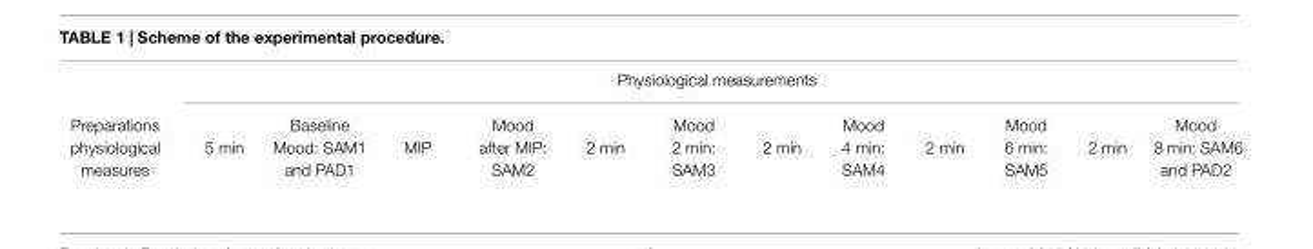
<table><thead><tr><td rowspan="2">Preparations physiological measures</td><td colspan="12">Physiological measurements</td></tr><tr><td>5 min</td><td>Baseline Mood: SAM1 and PAD1</td><td>MIP</td><td>Mood after MIP: SAM2</td><td>2 min</td><td>Mood 2 min: SAM3</td><td>2 min</td><td>Mood 4 min: SAM4</td><td>2 min</td><td>Mood 6 min: SAM5</td><td>2 min</td><td>Mood 8 min: SAM6 and PAD2</td></tr></thead><tbody></tbody></table>